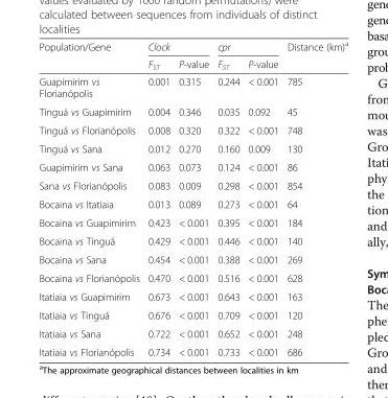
<table><thead><tr><td rowspan="2">Population/Gene</td><td colspan="2">Clock</td><td colspan="2">cpr</td><td rowspan="2">Distance (km)<sup>a</sup></td></tr><tr><td>F<sub>ST</sub></td><td>P-value</td><td>F<sub>ST</sub></td><td>P-value</td></tr></thead><tbody><tr><td>Guapimirim vs Florianópolis</td><td>0.001</td><td>0.315</td><td>0.244</td><td>&lt; 0.001</td><td>785</td></tr><tr><td>Tinguá vs Guapimirim</td><td>0.004</td><td>0.346</td><td>0.035</td><td>0.092</td><td>45</td></tr><tr><td>Tinguá vs Florianópolis</td><td>0.008</td><td>0.320</td><td>0.322</td><td>&lt; 0.001</td><td>748</td></tr><tr><td>Tinguá vs Sana</td><td>0.012</td><td>0.270</td><td>0.160</td><td>0.009</td><td>130</td></tr><tr><td>Guapimirim vs Sana</td><td>0.063</td><td>0.073</td><td>0.124</td><td>&lt; 0.001</td><td>86</td></tr><tr><td>Sana vs Florianópolis</td><td>0.083</td><td>0.009</td><td>0.298</td><td>&lt; 0.001</td><td>854</td></tr><tr><td>Bocaina vs Itatiaia</td><td>0.013</td><td>0.089</td><td>0.273</td><td>&lt; 0.001</td><td>64</td></tr><tr><td>Bocaina vs Guapimirim</td><td>0.423</td><td>&lt; 0.001</td><td>0.395</td><td>&lt; 0.001</td><td>184</td></tr><tr><td>Bocaina vs Tinguá</td><td>0.429</td><td>&lt; 0.001</td><td>0.446</td><td>&lt; 0.001</td><td>140</td></tr><tr><td>Bocaina vs Sana</td><td>0.454</td><td>&lt; 0.001</td><td>0.388</td><td>&lt; 0.001</td><td>269</td></tr><tr><td>Bocaina vs Florianópolis</td><td>0.470</td><td>&lt; 0.001</td><td>0.516</td><td>&lt; 0.001</td><td>628</td></tr><tr><td>Itatiaia vs Guapimirim</td><td>0.673</td><td>&lt; 0.001</td><td>0.643</td><td>&lt; 0.001</td><td>163</td></tr><tr><td>Itatiaia vs Tinguá</td><td>0.676</td><td>&lt; 0.001</td><td>0.709</td><td>&lt; 0.001</td><td>120</td></tr><tr><td>Itatiaia vs Sana</td><td>0.722</td><td>&lt; 0.001</td><td>0.652</td><td>&lt; 0.001</td><td>248</td></tr><tr><td>Itatiaia vs Florianópolis</td><td>0.734</td><td>&lt; 0.001</td><td>0.733</td><td>&lt; 0.001</td><td>686</td></tr></tbody></table>